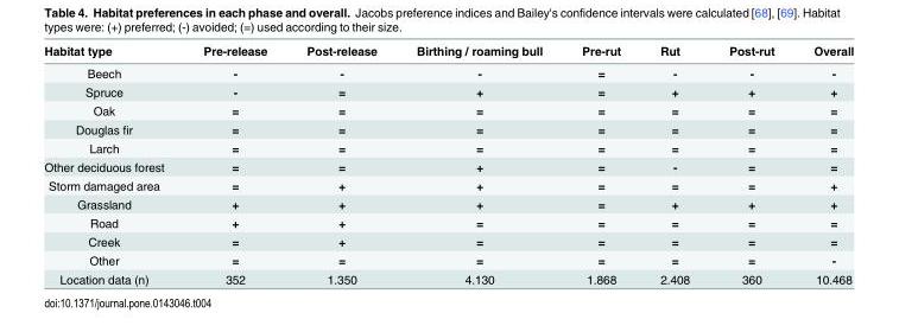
<table><thead><tr><td>Habitat type</td><td>Pre-release</td><td>Post-release</td><td>Birthing / roaming bull</td><td>Pre-rut</td><td>Rut</td><td>Post-rut</td><td>Overall</td></tr></thead><tbody><tr><td>Beech</td><td>-</td><td>-</td><td>-</td><td>=</td><td>-</td><td>-</td><td>-</td></tr><tr><td>Spruce</td><td>-</td><td>=</td><td>+</td><td>=</td><td>+</td><td>+</td><td>+</td></tr><tr><td>Oak</td><td>=</td><td>=</td><td>=</td><td>=</td><td>=</td><td>=</td><td>=</td></tr><tr><td>Douglas fir</td><td>=</td><td>=</td><td>=</td><td>=</td><td>=</td><td>=</td><td>=</td></tr><tr><td>Larch</td><td>=</td><td>=</td><td>=</td><td>=</td><td>=</td><td>=</td><td>=</td></tr><tr><td>Other deciduous forest</td><td>=</td><td>=</td><td>+</td><td>=</td><td>-</td><td>=</td><td>=</td></tr><tr><td>Storm damaged area</td><td>=</td><td>+</td><td>+</td><td>=</td><td>=</td><td>=</td><td>+</td></tr><tr><td>Grassland</td><td>+</td><td>+</td><td>+</td><td>=</td><td>+</td><td>+</td><td>+</td></tr><tr><td>Road</td><td>+</td><td>+</td><td>=</td><td>=</td><td>=</td><td>=</td><td>=</td></tr><tr><td>Creek</td><td>=</td><td>+</td><td>=</td><td>=</td><td>=</td><td>=</td><td>=</td></tr><tr><td>Other</td><td>=</td><td>=</td><td>=</td><td>=</td><td>=</td><td>=</td><td>-</td></tr><tr><td>Location data (n)</td><td>352</td><td>1.350</td><td>4.130</td><td>1.868</td><td>2.408</td><td>360</td><td>10.468</td></tr></tbody></table>